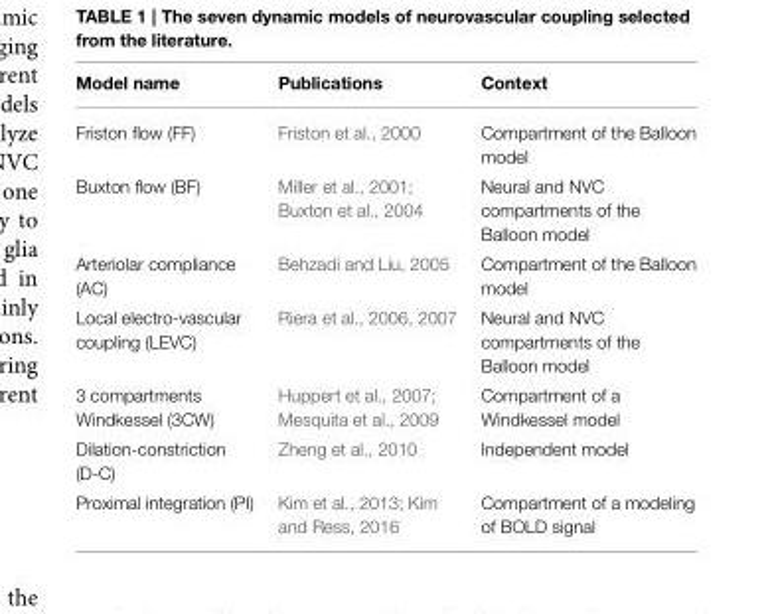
<table><thead><tr><td>Model name</td><td>Publications</td><td>Context</td></tr></thead><tbody><tr><td>Friston flow (FF)</td><td>Friston et al., 2000</td><td>Compartment of the Balloon model</td></tr><tr><td>Buxton flow (BF)</td><td>Miller et al., 2001; Buxton et al., 2004</td><td>Neural and NVC compartments of the Balloon model</td></tr><tr><td>Arteriolar compliance (AC)</td><td>Behzadi and Liu, 2005</td><td>Compartment of the Balloon model</td></tr><tr><td>Local electro-vascular coupling (LEVC)</td><td>Riera et al., 2006, 2007</td><td>Neural and NVC compartments of the Balloon model</td></tr><tr><td>3 compartments Windkessel (3CW)</td><td>Huppert et al., 2007; Mesquita et al., 2009</td><td>Compartment of a Windkessel model</td></tr><tr><td>Dilation-constriction (D-C)</td><td>Zheng et al., 2010</td><td>Independent model</td></tr><tr><td>Proximal integration (PI)</td><td>Kim et al., 2013; Kim and Ress, 2016</td><td>Compartment of a modeling of BOLD signal</td></tr></tbody></table>